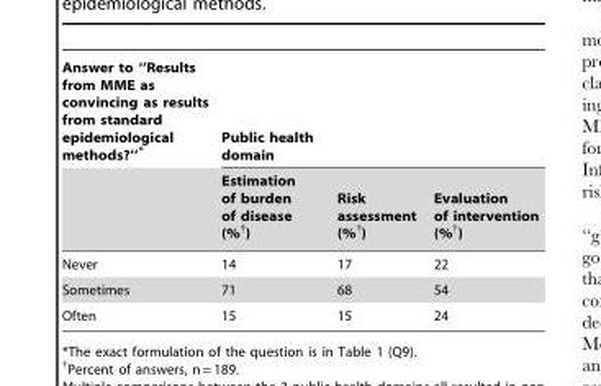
<table><thead><tr><td rowspan="2">Answer to ‘‘Results from MME as convincing as results from standard epidemiological methods?’’*</td><td colspan="3">Public health domain</td></tr><tr><td>Estimation of burden of disease (%†)</td><td>Risk assessment (%†)</td><td>Evaluation of intervention (%†)</td></tr></thead><tbody><tr><td>Never</td><td>14</td><td>17</td><td>22</td></tr><tr><td>Sometimes</td><td>71</td><td>68</td><td>54</td></tr><tr><td>Often</td><td>15</td><td>15</td><td>24</td></tr></tbody></table>